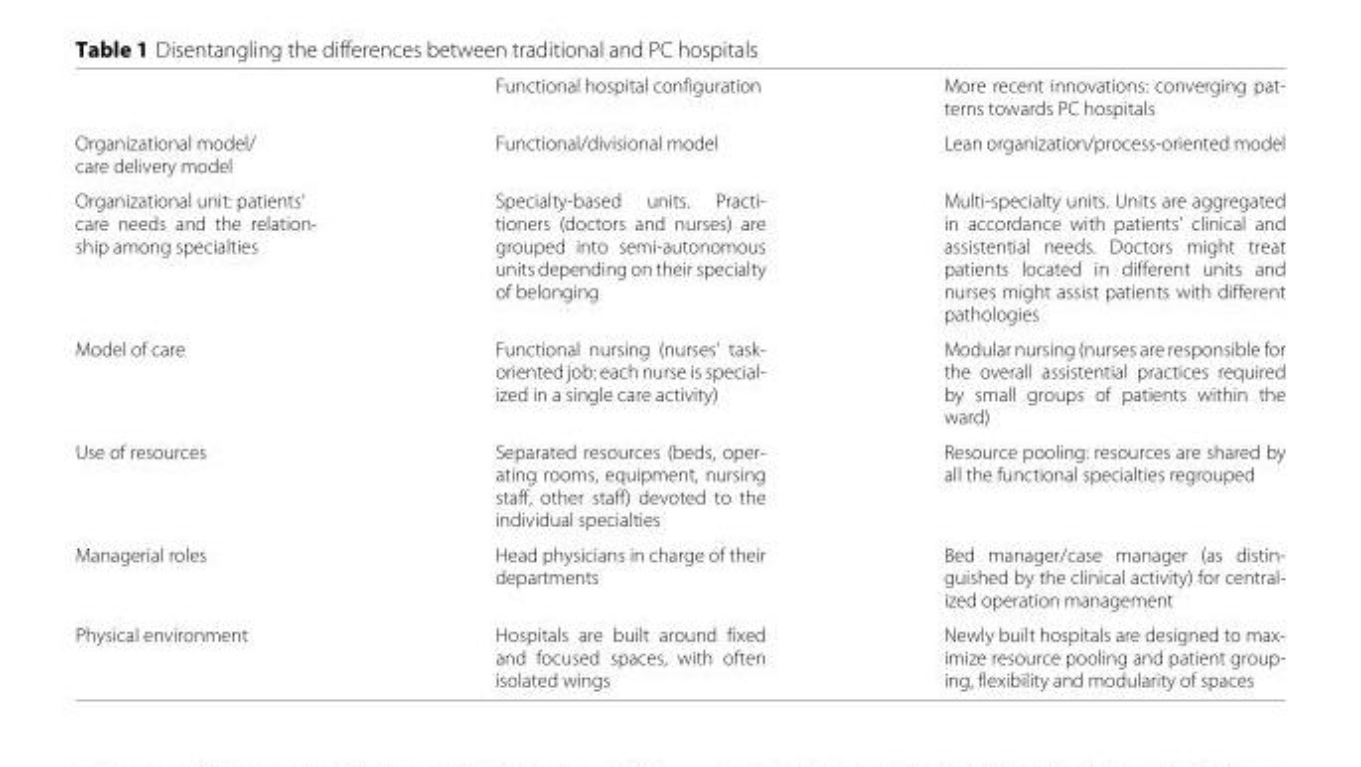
<table><thead><tr><td></td><td>Functional hospital configuration</td><td>More recent innovations: converging pat- terns towards PC hospitals</td></tr></thead><tbody><tr><td>Organizational model/ care delivery model</td><td>Functional/divisional model</td><td>Lean organization/process-oriented model</td></tr><tr><td>Organizational unit: patients’ care needs and the relation- ship among specialties</td><td>Specialty-based units. Practi- tioners (doctors and nurses) are grouped into semi-autonomous units depending on their specialty of belonging</td><td>Multi-specialty units. Units are aggregated in accordance with patients’ clinical and assistential needs. Doctors might treat patients located in different units and nurses might assist patients with different pathologies</td></tr><tr><td>Model of care</td><td>Functional nursing (nurses’ task- oriented job: each nurse is special- ized in a single care activity)</td><td>Modular nursing (nurses are responsible for the overall assistential practices required by small groups of patients within the ward)</td></tr><tr><td>Use of resources</td><td>Separated resources (beds, oper- ating rooms, equipment, nursing staff, other staff) devoted to the individual specialties</td><td>Resource pooling: resources are shared by all the functional specialties regrouped</td></tr><tr><td>Managerial roles</td><td>Head physicians in charge of their departments</td><td>Bed manager/case manager (as distin- guished by the clinical activity) for central- ized operation management</td></tr><tr><td>Physical environment</td><td>Hospitals are built around fixed and focused spaces, with often isolated wings</td><td>Newly built hospitals are designed to max- imize resource pooling and patient group- ing, flexibility and modularity of spaces</td></tr></tbody></table>